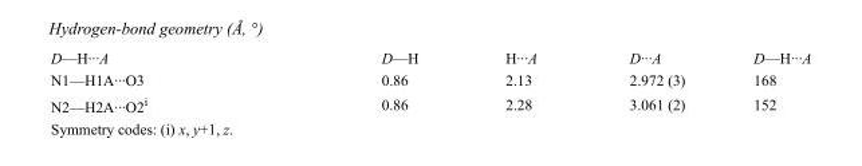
<table><tbody><tr><td>D—H···A</td><td>D—H</td><td>H···A</td><td>D···A</td><td>D—H···A</td></tr><tr><td>N1—H1A···O3</td><td>0.86</td><td>2.13</td><td>2.972 (3)</td><td>168</td></tr><tr><td>N2—H2A···O2<sup>i</sup></td><td>0.86</td><td>2.28</td><td>3.061 (2)</td><td>152</td></tr></tbody></table>